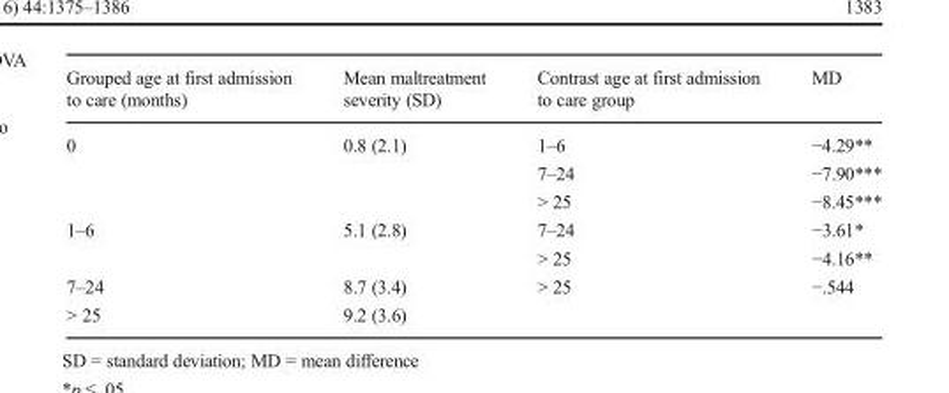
<table><thead><tr><td>Grouped age at first admission to care (months)</td><td>Mean maltreatment severity (SD)</td><td>Contrast age at first admission to care group</td><td>MD</td></tr></thead><tbody><tr><td rowspan="3">0</td><td>0.8 (2.1)</td><td>1–6</td><td>−4.29**</td></tr><tr><td></td><td>7–24</td><td>−7.90***</td></tr><tr><td></td><td>&gt; 25</td><td>−8.45***</td></tr><tr><td rowspan="2">1–6</td><td>5.1 (2.8)</td><td>7–24</td><td>−3.61*</td></tr><tr><td></td><td>&gt; 25</td><td>−4.16**</td></tr><tr><td>7–24</td><td>8.7 (3.4)</td><td>&gt; 25</td><td>−.544</td></tr><tr><td>&gt; 25</td><td>9.2 (3.6)</td><td></td><td></td></tr></tbody></table>